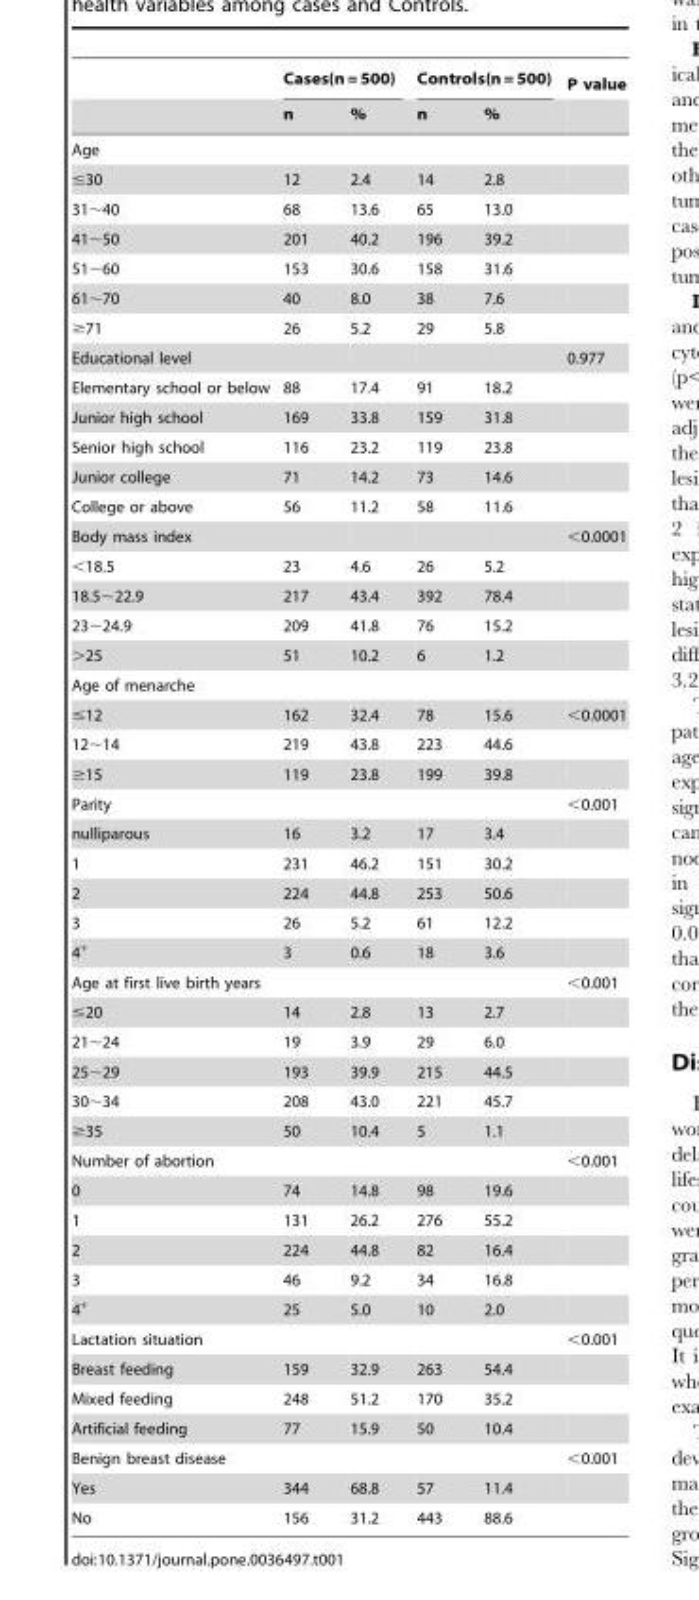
<table><thead><tr><td rowspan="2"></td><td colspan="2">Cases(n = 500)</td><td colspan="2">Controls(n = 500)</td><td rowspan="2">P value</td></tr><tr><td>n</td><td>%</td><td>n</td><td>%</td></tr></thead><tbody><tr><td colspan="6">Age</td></tr><tr><td>≤30</td><td>12</td><td>2.4</td><td>14</td><td>2.8</td><td></td></tr><tr><td>31∼40</td><td>68</td><td>13.6</td><td>65</td><td>13.0</td><td></td></tr><tr><td>41∼50</td><td>201</td><td>40.2</td><td>196</td><td>39.2</td><td></td></tr><tr><td>51∼60</td><td>153</td><td>30.6</td><td>158</td><td>31.6</td><td></td></tr><tr><td>61∼70</td><td>40</td><td>8.0</td><td>38</td><td>7.6</td><td></td></tr><tr><td>≥71</td><td>26</td><td>5.2</td><td>29</td><td>5.8</td><td></td></tr><tr><td>Educational level</td><td></td><td></td><td></td><td></td><td>0.977</td></tr><tr><td>Elementary school or below</td><td>88</td><td>17.4</td><td>91</td><td>18.2</td><td></td></tr><tr><td>Junior high school</td><td>169</td><td>33.8</td><td>159</td><td>31.8</td><td></td></tr><tr><td>Senior high school</td><td>116</td><td>23.2</td><td>119</td><td>23.8</td><td></td></tr><tr><td>Junior college</td><td>71</td><td>14.2</td><td>73</td><td>14.6</td><td></td></tr><tr><td>College or above</td><td>56</td><td>11.2</td><td>58</td><td>11.6</td><td></td></tr><tr><td>Body mass index</td><td></td><td></td><td></td><td></td><td>&lt;0.0001</td></tr><tr><td>&lt;18.5</td><td>23</td><td>4.6</td><td>26</td><td>5.2</td><td></td></tr><tr><td>18.5∼22.9</td><td>217</td><td>43.4</td><td>392</td><td>78.4</td><td></td></tr><tr><td>23∼24.9</td><td>209</td><td>41.8</td><td>76</td><td>15.2</td><td></td></tr><tr><td>&gt;25</td><td>51</td><td>10.2</td><td>6</td><td>1.2</td><td></td></tr><tr><td colspan="6">Age of menarche</td></tr><tr><td>≤12</td><td>162</td><td>32.4</td><td>78</td><td>15.6</td><td>&lt;0.0001</td></tr><tr><td>12∼14</td><td>219</td><td>43.8</td><td>223</td><td>44.6</td><td></td></tr><tr><td>≥15</td><td>119</td><td>23.8</td><td>199</td><td>39.8</td><td></td></tr><tr><td>Parity</td><td></td><td></td><td></td><td></td><td>&lt;0.001</td></tr><tr><td>nulliparous</td><td>16</td><td>3.2</td><td>17</td><td>3.4</td><td></td></tr><tr><td>1</td><td>231</td><td>46.2</td><td>151</td><td>30.2</td><td></td></tr><tr><td>2</td><td>224</td><td>44.8</td><td>253</td><td>50.6</td><td></td></tr><tr><td>3</td><td>26</td><td>5.2</td><td>61</td><td>12.2</td><td></td></tr><tr><td>4<sup>+</sup></td><td>3</td><td>0.6</td><td>18</td><td>3.6</td><td></td></tr><tr><td>Age at first live birth years</td><td></td><td></td><td></td><td></td><td>&lt;0.001</td></tr><tr><td>≤20</td><td>14</td><td>2.8</td><td>13</td><td>2.7</td><td></td></tr><tr><td>21∼24</td><td>19</td><td>3.9</td><td>29</td><td>6.0</td><td></td></tr><tr><td>25∼29</td><td>193</td><td>39.9</td><td>215</td><td>44.5</td><td></td></tr><tr><td>30∼34</td><td>208</td><td>43.0</td><td>221</td><td>45.7</td><td></td></tr><tr><td>≥35</td><td>50</td><td>10.4</td><td>5</td><td>1.1</td><td></td></tr><tr><td>Number of abortion</td><td></td><td></td><td></td><td></td><td>&lt;0.001</td></tr><tr><td>0</td><td>74</td><td>14.8</td><td>98</td><td>19.6</td><td></td></tr><tr><td>1</td><td>131</td><td>26.2</td><td>276</td><td>55.2</td><td></td></tr><tr><td>2</td><td>224</td><td>44.8</td><td>82</td><td>16.4</td><td></td></tr><tr><td>3</td><td>46</td><td>9.2</td><td>34</td><td>16.8</td><td></td></tr><tr><td>4<sup>+</sup></td><td>25</td><td>5.0</td><td>10</td><td>2.0</td><td></td></tr><tr><td>Lactation situation</td><td></td><td></td><td></td><td></td><td>&lt;0.001</td></tr><tr><td>Breast feeding</td><td>159</td><td>32.9</td><td>263</td><td>54.4</td><td></td></tr><tr><td>Mixed feeding</td><td>248</td><td>51.2</td><td>170</td><td>35.2</td><td></td></tr><tr><td>Artificial feeding</td><td>77</td><td>15.9</td><td>50</td><td>10.4</td><td></td></tr><tr><td>Benign breast disease</td><td></td><td></td><td></td><td></td><td>&lt;0.001</td></tr><tr><td>Yes</td><td>344</td><td>68.8</td><td>57</td><td>11.4</td><td></td></tr><tr><td>No</td><td>156</td><td>31.2</td><td>443</td><td>88.6</td><td></td></tr></tbody></table>